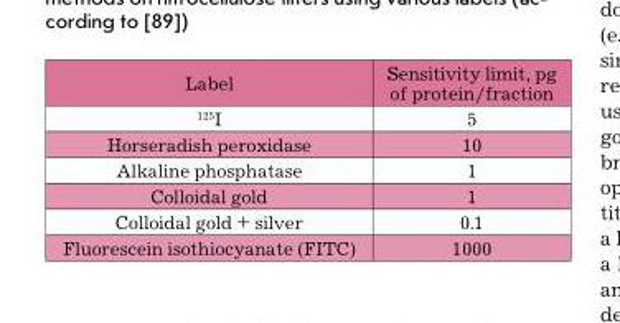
<table><thead><tr><td>Label</td><td>Sensitivity limit, pg of protein/fraction</td></tr></thead><tbody><tr><td><sup>125</sup>I</td><td>5</td></tr><tr><td>Horseradish peroxidase</td><td>10</td></tr><tr><td>Alkaline phosphatase</td><td>1</td></tr><tr><td>Colloidal gold</td><td>1</td></tr><tr><td>Colloidal gold + silver</td><td>0.1</td></tr><tr><td>Fluorescein isothiocyanate (FITC)</td><td>1000</td></tr></tbody></table>